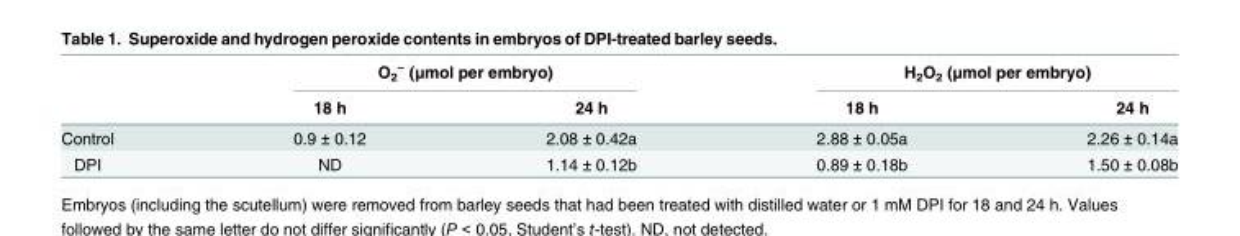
<table><thead><tr><td rowspan="2"></td><td colspan="2">O<sub>2</sub> <sup>−</sup> (μmol per embryo)</td><td colspan="2">H<sub>2</sub>O<sub>2</sub> (μmol per embryo)</td></tr><tr><td>18 h</td><td>24 h</td><td>18 h</td><td>24 h</td></tr></thead><tbody><tr><td>Control</td><td>0.9 ± 0.12</td><td>2.08 ± 0.42a</td><td>2.88 ± 0.05a</td><td>2.26 ± 0.14a</td></tr><tr><td>DPI</td><td>ND</td><td>1.14 ± 0.12b</td><td>0.89 ± 0.18b</td><td>1.50 ± 0.08b</td></tr></tbody></table>